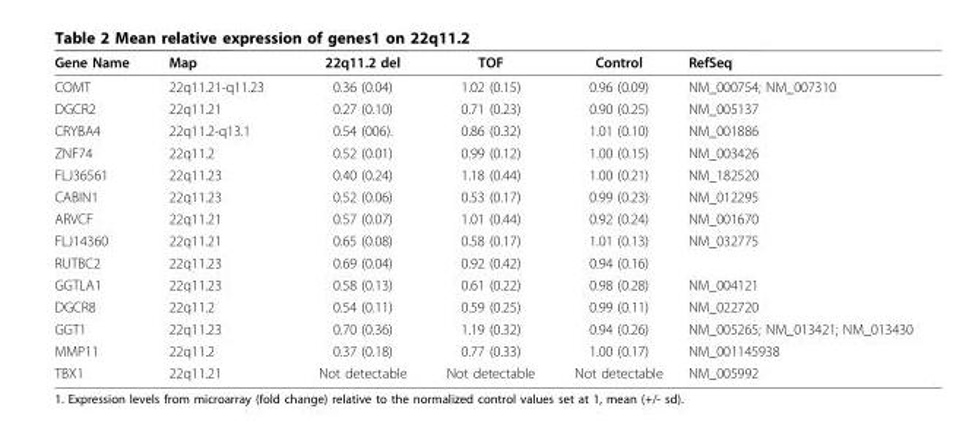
<table><thead><tr><td>Gene Name</td><td>Map</td><td>22q11.2 del</td><td>TOF</td><td>Control</td><td>RefSeq</td></tr></thead><tbody><tr><td>COMT</td><td>22q11.21-q11.23</td><td>0.36 (0.04)</td><td>1.02 (0.15)</td><td>0.96 (0.09)</td><td>NM_000754; NM_007310</td></tr><tr><td>DGCR2</td><td>22q11.21</td><td>0.27 (0.10)</td><td>0.71 (0.23)</td><td>0.90 (0.25)</td><td>NM_005137</td></tr><tr><td>CRYBA4</td><td>22q11.2-q13.1</td><td>0.54 (006).</td><td>0.86 (0.32)</td><td>1.01 (0.10)</td><td>NM_001886</td></tr><tr><td>ZNF74</td><td>22q11.2</td><td>0.52 (0.01)</td><td>0.99 (0.12)</td><td>1.00 (0.15)</td><td>NM_003426</td></tr><tr><td>FLJ36561</td><td>22q11.23</td><td>0.40 (0.24)</td><td>1.18 (0.44)</td><td>1.00 (0.21)</td><td>NM_182520</td></tr><tr><td>CABIN1</td><td>22q11.23</td><td>0.52 (0.06)</td><td>0.53 (0.17)</td><td>0.99 (0.23)</td><td>NM_012295</td></tr><tr><td>ARVCF</td><td>22q11.21</td><td>0.57 (0.07)</td><td>1.01 (0.44)</td><td>0.92 (0.24)</td><td>NM_001670</td></tr><tr><td>FLJ14360</td><td>22q11.21</td><td>0.65 (0.08)</td><td>0.58 (0.17)</td><td>1.01 (0.13)</td><td>NM_032775</td></tr><tr><td>RUTBC2</td><td>22q11.23</td><td>0.69 (0.04)</td><td>0.92 (0.42)</td><td>0.94 (0.16)</td><td></td></tr><tr><td>GGTLA1</td><td>22q11.23</td><td>0.58 (0.13)</td><td>0.61 (0.22)</td><td>0.98 (0.28)</td><td>NM_004121</td></tr><tr><td>DGCR8</td><td>22q11.2</td><td>0.54 (0.11)</td><td>0.59 (0.25)</td><td>0.99 (0.11)</td><td>NM_022720</td></tr><tr><td>GGT1</td><td>22q11.23</td><td>0.70 (0.36)</td><td>1.19 (0.32)</td><td>0.94 (0.26)</td><td>NM_005265; NM_013421; NM_013430</td></tr><tr><td>MMP11</td><td>22q11.2</td><td>0.37 (0.18)</td><td>0.77 (0.33)</td><td>1.00 (0.17)</td><td>NM_001145938</td></tr><tr><td>TBX1</td><td>22q11.21</td><td>Not detectable</td><td>Not detectable</td><td>Not detectable</td><td>NM_005992</td></tr></tbody></table>